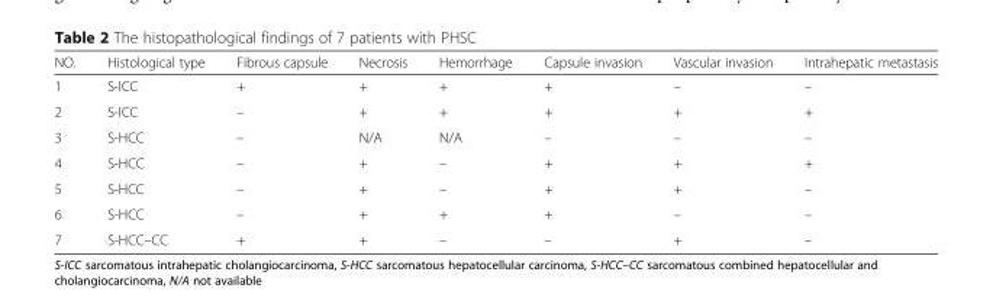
<table><thead><tr><td>NO.</td><td>Histological type</td><td>Fibrous capsule</td><td>Necrosis</td><td>Hemorrhage</td><td>Capsule invasion</td><td>Vascular invasion</td><td>Intrahepatic metastasis</td></tr></thead><tbody><tr><td>1</td><td>S-ICC</td><td>+</td><td>+</td><td>+</td><td>+</td><td>–</td><td>–</td></tr><tr><td>2</td><td>S-ICC</td><td>–</td><td>+</td><td>+</td><td>+</td><td>+</td><td>+</td></tr><tr><td>3</td><td>S-HCC</td><td>–</td><td>N/A</td><td>N/A</td><td>–</td><td>–</td><td>–</td></tr><tr><td>4</td><td>S-HCC</td><td>–</td><td>+</td><td>–</td><td>+</td><td>+</td><td>+</td></tr><tr><td>5</td><td>S-HCC</td><td>–</td><td>+</td><td>–</td><td>+</td><td>+</td><td>–</td></tr><tr><td>6</td><td>S-HCC</td><td>–</td><td>+</td><td>+</td><td>+</td><td>–</td><td>–</td></tr><tr><td>7</td><td>S-HCC–CC</td><td>+</td><td>+</td><td>–</td><td>–</td><td>+</td><td>–</td></tr></tbody></table>